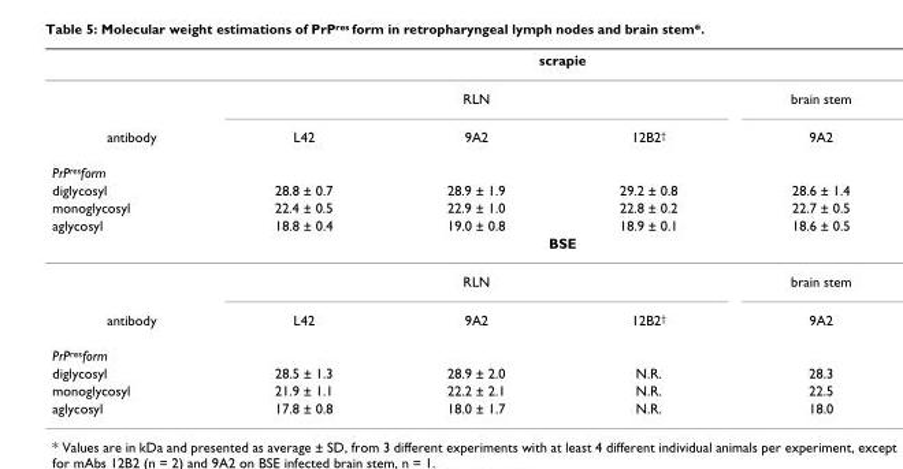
<table><thead><tr><td rowspan="3">antibody</td><td colspan="4">scrapie</td></tr><tr><td colspan="3">RLN</td><td rowspan="2">brain stem 9A2</td></tr><tr><td>L42</td><td>9A2</td><td>12B2†</td></tr></thead><tbody><tr><td colspan="5">PrPresform</td></tr><tr><td>diglycosyl</td><td>28.8 ± 0.7</td><td>28.9 ± 1.9</td><td>29.2 ± 0.8</td><td>28.6 ± 1.4</td></tr><tr><td>monoglycosyl</td><td>22.4 ± 0.5</td><td>22.9 ± 1.0</td><td>22.8 ± 0.2</td><td>22.7 ± 0.5</td></tr><tr><td rowspan="3">aglycosyl</td><td>18.8 ± 0.4</td><td>19.0 ± 0.8</td><td>18.9 ± 0.1</td><td>18.6 ± 0.5</td></tr><tr><td colspan="4">BSE</td></tr><tr><td colspan="3">RLN</td><td>brain stem</td></tr><tr><td>antibody</td><td>L42</td><td>9A2</td><td>12B2†</td><td>9A2</td></tr><tr><td colspan="5">PrPresform</td></tr><tr><td>diglycosyl</td><td>28.5 ± 1.3</td><td>28.9 ± 2.0</td><td>N.R.</td><td>28.3</td></tr><tr><td>monoglycosyl</td><td>21.9 ± 1.1</td><td>22.2 ± 2.1</td><td>N.R.</td><td>22.5</td></tr><tr><td>aglycosyl</td><td>17.8 ± 0.8</td><td>18.0 ± 1.7</td><td>N.R.</td><td>18.0</td></tr></tbody></table>